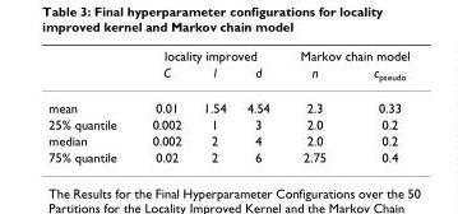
<table><thead><tr><td rowspan="2"></td><td colspan="3">locality improved</td><td colspan="2">Markov chain model</td></tr><tr><td>C</td><td>l</td><td>d</td><td>n</td><td>c<sub>pseudo</sub></td></tr></thead><tbody><tr><td>mean</td><td>0.01</td><td>1.54</td><td>4.54</td><td>2.3</td><td>0.33</td></tr><tr><td>25% quantile</td><td>0.002</td><td>1</td><td>3</td><td>2.0</td><td>0.2</td></tr><tr><td>median</td><td>0.002</td><td>2</td><td>4</td><td>2.0</td><td>0.2</td></tr><tr><td>75% quantile</td><td>0.02</td><td>2</td><td>6</td><td>2.75</td><td>0.4</td></tr></tbody></table>